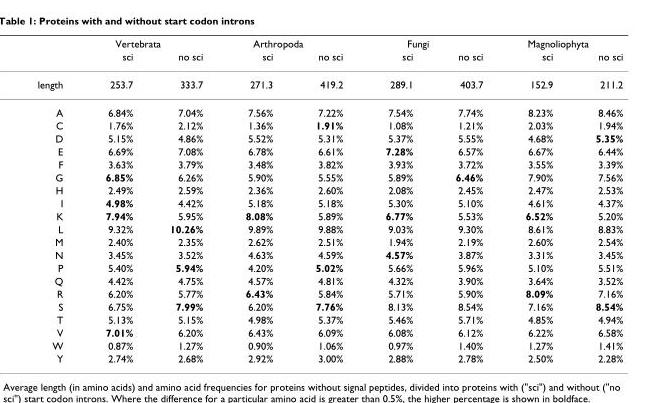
<table><thead><tr><td rowspan="2"></td><td colspan="2">Vertebrata</td><td colspan="2">Arthropoda</td><td colspan="2">Fungi</td><td colspan="2">Magnoliophyta</td></tr><tr><td>sci</td><td>no sci</td><td>sci</td><td>no sci</td><td>sci</td><td>no sci</td><td>sci</td><td>no sci</td></tr></thead><tbody><tr><td>length</td><td>253.7</td><td>333.7</td><td>271.3</td><td>419.2</td><td>289.1</td><td>403.7</td><td>152.9</td><td>211.2</td></tr><tr><td>A</td><td>6.84%</td><td>7.04%</td><td>7.56%</td><td>7.22%</td><td>7.54%</td><td>7.74%</td><td>8.23%</td><td>8.46%</td></tr><tr><td>C</td><td>1.76%</td><td>2.12%</td><td>1.36%</td><td>1.91%</td><td>1.08%</td><td>1.21%</td><td>2.03%</td><td>1.94%</td></tr><tr><td>D</td><td>5.15%</td><td>4.86%</td><td>5.52%</td><td>5.31%</td><td>5.37%</td><td>5.55%</td><td>4.68%</td><td>5.35%</td></tr><tr><td>E</td><td>6.69%</td><td>7.08%</td><td>6.78%</td><td>6.61%</td><td>7.28%</td><td>6.57%</td><td>6.67%</td><td>6.44%</td></tr><tr><td>F</td><td>3.63%</td><td>3.79%</td><td>3.48%</td><td>3.82%</td><td>3.93%</td><td>3.72%</td><td>3.55%</td><td>3.39%</td></tr><tr><td>G</td><td>6.85%</td><td>6.26%</td><td>5.90%</td><td>5.55%</td><td>5.89%</td><td>6.46%</td><td>7.90%</td><td>7.56%</td></tr><tr><td>H</td><td>2.49%</td><td>2.59%</td><td>2.36%</td><td>2.60%</td><td>2.08%</td><td>2.45%</td><td>2.47%</td><td>2.53%</td></tr><tr><td>I</td><td>4.98%</td><td>4.42%</td><td>5.18%</td><td>5.18%</td><td>5.30%</td><td>5.10%</td><td>4.61%</td><td>4.37%</td></tr><tr><td>K</td><td>7.94%</td><td>5.95%</td><td>8.08%</td><td>5.89%</td><td>6.77%</td><td>5.53%</td><td>6.52%</td><td>5.20%</td></tr><tr><td>L</td><td>9.32%</td><td>10.26%</td><td>9.89%</td><td>9.88%</td><td>9.03%</td><td>9.30%</td><td>8.61%</td><td>8.83%</td></tr><tr><td>M</td><td>2.40%</td><td>2.35%</td><td>2.62%</td><td>2.51%</td><td>1.94%</td><td>2.19%</td><td>2.60%</td><td>2.54%</td></tr><tr><td>N</td><td>3.45%</td><td>3.52%</td><td>4.63%</td><td>4.59%</td><td>4.57%</td><td>3.87%</td><td>3.31%</td><td>3.45%</td></tr><tr><td>P</td><td>5.40%</td><td>5.94%</td><td>4.20%</td><td>5.02%</td><td>5.66%</td><td>5.96%</td><td>5.10%</td><td>5.51%</td></tr><tr><td>Q</td><td>4.42%</td><td>4.75%</td><td>4.57%</td><td>4.81%</td><td>4.32%</td><td>3.90%</td><td>3.64%</td><td>3.52%</td></tr><tr><td>R</td><td>6.20%</td><td>5.77%</td><td>6.43%</td><td>5.84%</td><td>5.71%</td><td>5.90%</td><td>8.09%</td><td>7.16%</td></tr><tr><td>S</td><td>6.75%</td><td>7.99%</td><td>6.20%</td><td>7.76%</td><td>8.13%</td><td>8.54%</td><td>7.16%</td><td>8.54%</td></tr><tr><td>T</td><td>5.13%</td><td>5.15%</td><td>4.98%</td><td>5.37%</td><td>5.46%</td><td>5.71%</td><td>4.85%</td><td>4.94%</td></tr><tr><td>V</td><td>7.01%</td><td>6.20%</td><td>6.43%</td><td>6.09%</td><td>6.08%</td><td>6.12%</td><td>6.22%</td><td>6.58%</td></tr><tr><td>W</td><td>0.87%</td><td>1.27%</td><td>0.90%</td><td>1.06%</td><td>0.97%</td><td>1.40%</td><td>1.27%</td><td>1.41%</td></tr><tr><td>Y</td><td>2.74%</td><td>2.68%</td><td>2.92%</td><td>3.00%</td><td>2.88%</td><td>2.78%</td><td>2.50%</td><td>2.28%</td></tr></tbody></table>